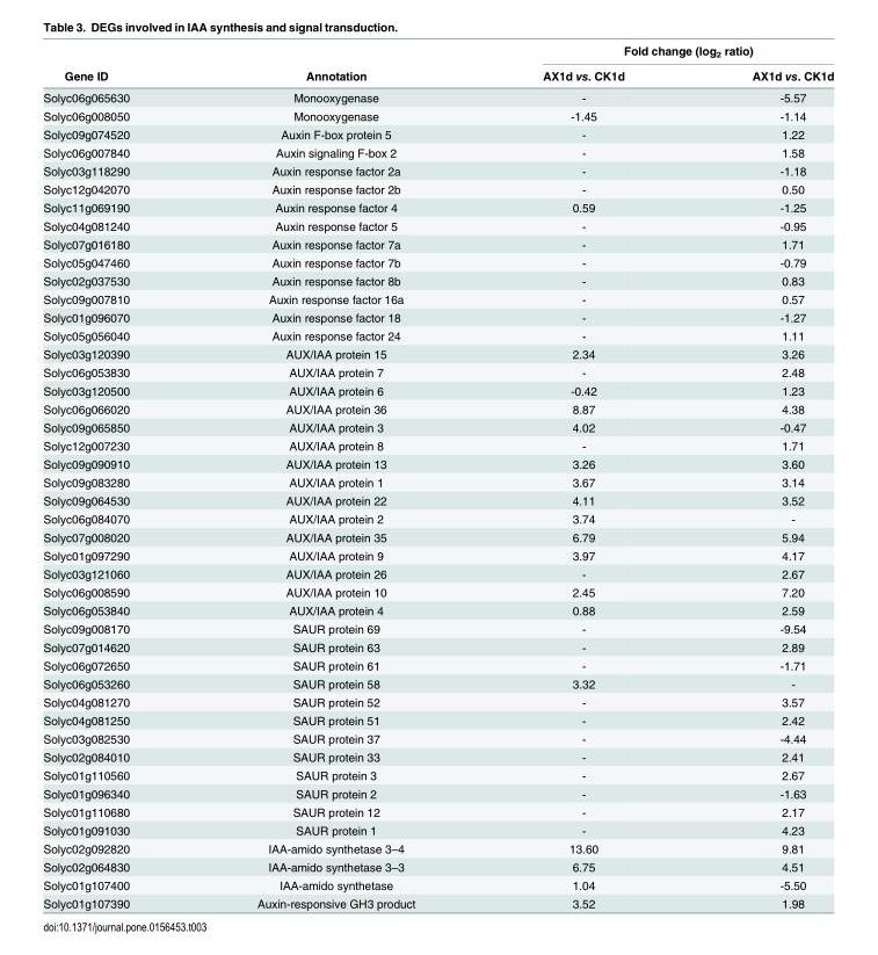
<table><thead><tr><td rowspan="2">Gene ID</td><td rowspan="2">Annotation</td><td colspan="2">Fold change (log<sub>2</sub> ratio)</td></tr><tr><td>AX1d vs. CK1d</td><td>AX1d vs. CK1d</td></tr></thead><tbody><tr><td>Solyc06g065630</td><td>Monooxygenase</td><td>-</td><td>-5.57</td></tr><tr><td>Solyc06g008050</td><td>Monooxygenase</td><td>-1.45</td><td>-1.14</td></tr><tr><td>Solyc09g074520</td><td>Auxin F-box protein 5</td><td>-</td><td>1.22</td></tr><tr><td>Solyc06g007840</td><td>Auxin signaling F-box 2</td><td>-</td><td>1.58</td></tr><tr><td>Solyc03g118290</td><td>Auxin response factor 2a</td><td>-</td><td>-1.18</td></tr><tr><td>Solyc12g042070</td><td>Auxin response factor 2b</td><td>-</td><td>0.50</td></tr><tr><td>Solyc11g069190</td><td>Auxin response factor 4</td><td>0.59</td><td>-1.25</td></tr><tr><td>Solyc04g081240</td><td>Auxin response factor 5</td><td>-</td><td>-0.95</td></tr><tr><td>Solyc07g016180</td><td>Auxin response factor 7a</td><td>-</td><td>1.71</td></tr><tr><td>Solyc05g047460</td><td>Auxin response factor 7b</td><td>-</td><td>-0.79</td></tr><tr><td>Solyc02g037530</td><td>Auxin response factor 8b</td><td>-</td><td>0.83</td></tr><tr><td>Solyc09g007810</td><td>Auxin response factor 16a</td><td>-</td><td>0.57</td></tr><tr><td>Solyc01g096070</td><td>Auxin response factor 18</td><td>-</td><td>-1.27</td></tr><tr><td>Solyc05g056040</td><td>Auxin response factor 24</td><td>-</td><td>1.11</td></tr><tr><td>Solyc03g120390</td><td>AUX/IAA protein 15</td><td>2.34</td><td>3.26</td></tr><tr><td>Solyc06g053830</td><td>AUX/IAA protein 7</td><td>-</td><td>2.48</td></tr><tr><td>Solyc03g120500</td><td>AUX/IAA protein 6</td><td>-0.42</td><td>1.23</td></tr><tr><td>Solyc06g066020</td><td>AUX/IAA protein 36</td><td>8.87</td><td>4.38</td></tr><tr><td>Solyc09g065850</td><td>AUX/IAA protein 3</td><td>4.02</td><td>-0.47</td></tr><tr><td>Solyc12g007230</td><td>AUX/IAA protein 8</td><td>-</td><td>1.71</td></tr><tr><td>Solyc09g090910</td><td>AUX/IAA protein 13</td><td>3.26</td><td>3.60</td></tr><tr><td>Solyc09g083280</td><td>AUX/IAA protein 1</td><td>3.67</td><td>3.14</td></tr><tr><td>Solyc09g064530</td><td>AUX/IAA protein 22</td><td>4.11</td><td>3.52</td></tr><tr><td>Solyc06g084070</td><td>AUX/IAA protein 2</td><td>3.74</td><td>-</td></tr><tr><td>Solyc07g008020</td><td>AUX/IAA protein 35</td><td>6.79</td><td>5.94</td></tr><tr><td>Solyc01g097290</td><td>AUX/IAA protein 9</td><td>3.97</td><td>4.17</td></tr><tr><td>Solyc03g121060</td><td>AUX/IAA protein 26</td><td>-</td><td>2.67</td></tr><tr><td>Solyc06g008590</td><td>AUX/IAA protein 10</td><td>2.45</td><td>7.20</td></tr><tr><td>Solyc06g053840</td><td>AUX/IAA protein 4</td><td>0.88</td><td>2.59</td></tr><tr><td>Solyc09g008170</td><td>SAUR protein 69</td><td>-</td><td>-9.54</td></tr><tr><td>Solyc07g014620</td><td>SAUR protein 63</td><td>-</td><td>2.89</td></tr><tr><td>Solyc06g072650</td><td>SAUR protein 61</td><td>-</td><td>-1.71</td></tr><tr><td>Solyc06g053260</td><td>SAUR protein 58</td><td>3.32</td><td>-</td></tr><tr><td>Solyc04g081270</td><td>SAUR protein 52</td><td>-</td><td>3.57</td></tr><tr><td>Solyc04g081250</td><td>SAUR protein 51</td><td>-</td><td>2.42</td></tr><tr><td>Solyc03g082530</td><td>SAUR protein 37</td><td>-</td><td>-4.44</td></tr><tr><td>Solyc02g084010</td><td>SAUR protein 33</td><td>-</td><td>2.41</td></tr><tr><td>Solyc01g110560</td><td>SAUR protein 3</td><td>-</td><td>2.67</td></tr><tr><td>Solyc01g096340</td><td>SAUR protein 2</td><td>-</td><td>-1.63</td></tr><tr><td>Solyc01g110680</td><td>SAUR protein 12</td><td>-</td><td>2.17</td></tr><tr><td>Solyc01g091030</td><td>SAUR protein 1</td><td>-</td><td>4.23</td></tr><tr><td>Solyc02g092820</td><td>IAA-amido synthetase 3–4</td><td>13.60</td><td>9.81</td></tr><tr><td>Solyc02g064830</td><td>IAA-amido synthetase 3–3</td><td>6.75</td><td>4.51</td></tr><tr><td>Solyc01g107400</td><td>IAA-amido synthetase</td><td>1.04</td><td>-5.50</td></tr><tr><td>Solyc01g107390</td><td>Auxin-responsive GH3 product</td><td>3.52</td><td>1.98</td></tr></tbody></table>